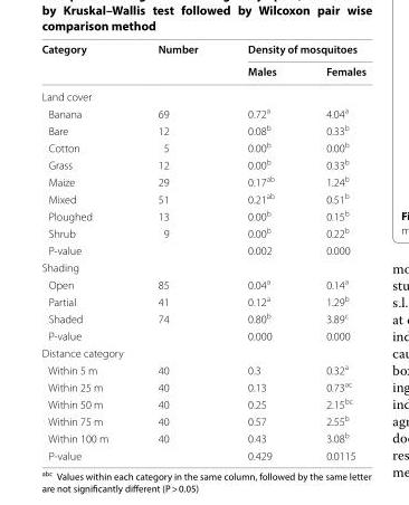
<table><thead><tr><td rowspan="2">Category</td><td rowspan="2">Number</td><td colspan="2">Density of mosquitoes</td></tr><tr><td>Males</td><td>Females</td></tr></thead><tbody><tr><td colspan="4">Land cover</td></tr><tr><td>Banana</td><td>69</td><td>0.72<sup>a</sup></td><td>4.04<sup>a</sup></td></tr><tr><td>Bare</td><td>12</td><td>0.08<sup>b</sup></td><td>0.33<sup>b</sup></td></tr><tr><td>Cotton</td><td>5</td><td>0.00<sup>b</sup></td><td>0.00<sup>b</sup></td></tr><tr><td>Grass</td><td>12</td><td>0.00<sup>b</sup></td><td>0.33<sup>b</sup></td></tr><tr><td>Maize</td><td>29</td><td>0.17<sup>ab</sup></td><td>1.24<sup>b</sup></td></tr><tr><td>Mixed</td><td>51</td><td>0.21<sup>ab</sup></td><td>0.51<sup>b</sup></td></tr><tr><td>Ploughed</td><td>13</td><td>0.00<sup>b</sup></td><td>0.15<sup>b</sup></td></tr><tr><td>Shrub</td><td>9</td><td>0.00<sup>b</sup></td><td>0.22<sup>b</sup></td></tr><tr><td>P-value</td><td></td><td>0.002</td><td>0.000</td></tr><tr><td colspan="4">Shading</td></tr><tr><td>Open</td><td>85</td><td>0.04<sup>a</sup></td><td>0.14<sup>a</sup></td></tr><tr><td>Partial</td><td>41</td><td>0.12<sup>a</sup></td><td>1.29<sup>b</sup></td></tr><tr><td>Shaded</td><td>74</td><td>0.80<sup>b</sup></td><td>3.89<sup>c</sup></td></tr><tr><td>P-value</td><td></td><td>0.000</td><td>0.000</td></tr><tr><td colspan="4">Distance category</td></tr><tr><td>Within 5 m</td><td>40</td><td>0.3</td><td>0.32<sup>a</sup></td></tr><tr><td>Within 25 m</td><td>40</td><td>0.13</td><td>0.73<sup>ac</sup></td></tr><tr><td>Within 50 m</td><td>40</td><td>0.25</td><td>2.15<sup>bc</sup></td></tr><tr><td>Within 75 m</td><td>40</td><td>0.57</td><td>2.55<sup>b</sup></td></tr><tr><td>Within 100 m</td><td>40</td><td>0.43</td><td>3.08<sup>b</sup></td></tr><tr><td>P-value</td><td></td><td>0.429</td><td>0.0115</td></tr></tbody></table>